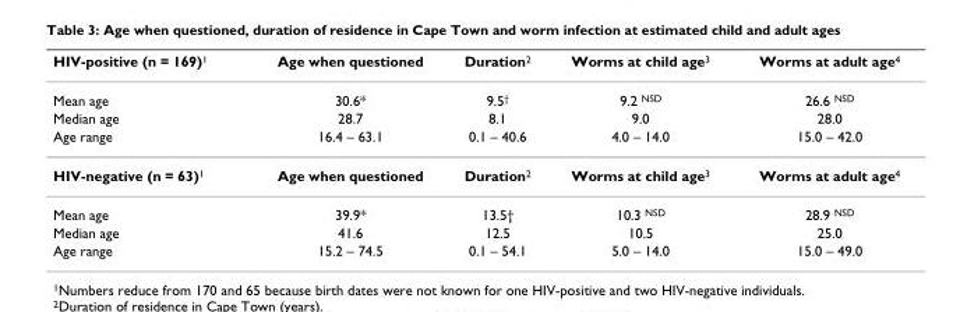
<table><thead><tr><td>HIV-positive (n = 169)<sup>1</sup></td><td>Age when questioned</td><td>Duration<sup>2</sup></td><td>Worms at child age<sup>3</sup></td><td>Worms at adult age<sup>4</sup></td></tr></thead><tbody><tr><td>Mean age</td><td>30.6*</td><td>9.5<sup>†</sup></td><td>9.2 <sup>NSD</sup></td><td>26.6 <sup>NSD</sup></td></tr><tr><td>Median age</td><td>28.7</td><td>8.1</td><td>9.0</td><td>28.0</td></tr><tr><td>Age range</td><td>16.4 – 63.1</td><td>0.1 – 40.6</td><td>4.0 – 14.0</td><td>15.0 – 42.0</td></tr><tr><td>HIV-negative (n = 63)<sup>1</sup></td><td>Age when questioned</td><td>Duration<sup>2</sup></td><td>Worms at child age<sup>3</sup></td><td>Worms at adult age<sup>4</sup></td></tr><tr><td>Mean age</td><td>39.9*</td><td>13.5†</td><td>10.3 <sup>NSD</sup></td><td>28.9 <sup>NSD</sup></td></tr><tr><td>Median age</td><td>41.6</td><td>12.5</td><td>10.5</td><td>25.0</td></tr><tr><td>Age range</td><td>15.2 – 74.5</td><td>0.1 – 54.1</td><td>5.0 – 14.0</td><td>15.0 – 49.0</td></tr></tbody></table>